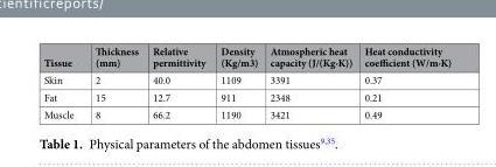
<table><thead><tr><td>Tissue</td><td>Thickness (mm)</td><td>Relative permittivity</td><td>Density (Kg/m3)</td><td>Atmospheric heat capacity (J/(Kg·K))</td><td>Heat conductivity coefficient (W/m·K)</td></tr></thead><tbody><tr><td>Skin</td><td>2</td><td>40.0</td><td>1109</td><td>3391</td><td>0.37</td></tr><tr><td>Fat</td><td>15</td><td>12.7</td><td>911</td><td>2348</td><td>0.21</td></tr><tr><td>Muscle</td><td>8</td><td>66.2</td><td>1190</td><td>3421</td><td>0.49</td></tr></tbody></table>